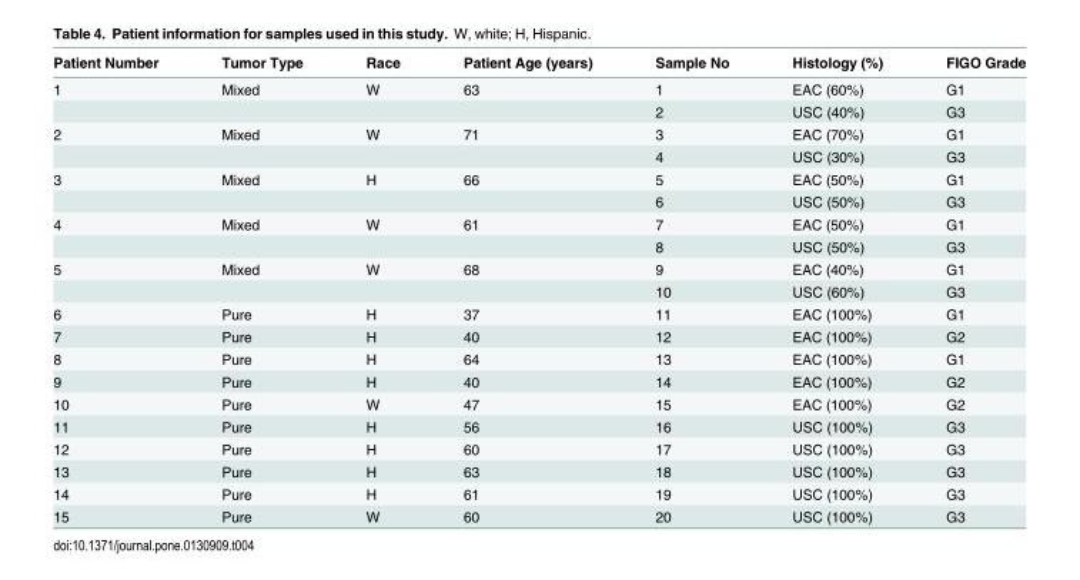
<table><thead><tr><td>Patient Number</td><td>Tumor Type</td><td>Race</td><td>Patient Age (years)</td><td>Sample No</td><td>Histology (%)</td><td>FIGO Grade</td></tr></thead><tbody><tr><td rowspan="2">1</td><td>Mixed</td><td>W</td><td>63</td><td>1</td><td>EAC (60%)</td><td>G1</td></tr><tr><td></td><td></td><td></td><td>2</td><td>USC (40%)</td><td>G3</td></tr><tr><td rowspan="2">2</td><td>Mixed</td><td>W</td><td>71</td><td>3</td><td>EAC (70%)</td><td>G1</td></tr><tr><td></td><td></td><td></td><td>4</td><td>USC (30%)</td><td>G3</td></tr><tr><td rowspan="2">3</td><td>Mixed</td><td>H</td><td>66</td><td>5</td><td>EAC (50%)</td><td>G1</td></tr><tr><td></td><td></td><td></td><td>6</td><td>USC (50%)</td><td>G3</td></tr><tr><td rowspan="2">4</td><td>Mixed</td><td>W</td><td>61</td><td>7</td><td>EAC (50%)</td><td>G1</td></tr><tr><td></td><td></td><td></td><td>8</td><td>USC (50%)</td><td>G3</td></tr><tr><td rowspan="2">5</td><td>Mixed</td><td>W</td><td>68</td><td>9</td><td>EAC (40%)</td><td>G1</td></tr><tr><td></td><td></td><td></td><td>10</td><td>USC (60%)</td><td>G3</td></tr><tr><td>6</td><td>Pure</td><td>H</td><td>37</td><td>11</td><td>EAC (100%)</td><td>G1</td></tr><tr><td>7</td><td>Pure</td><td>H</td><td>40</td><td>12</td><td>EAC (100%)</td><td>G2</td></tr><tr><td>8</td><td>Pure</td><td>H</td><td>64</td><td>13</td><td>EAC (100%)</td><td>G1</td></tr><tr><td>9</td><td>Pure</td><td>H</td><td>40</td><td>14</td><td>EAC (100%)</td><td>G2</td></tr><tr><td>10</td><td>Pure</td><td>W</td><td>47</td><td>15</td><td>EAC (100%)</td><td>G2</td></tr><tr><td>11</td><td>Pure</td><td>H</td><td>56</td><td>16</td><td>USC (100%)</td><td>G3</td></tr><tr><td>12</td><td>Pure</td><td>H</td><td>60</td><td>17</td><td>USC (100%)</td><td>G3</td></tr><tr><td>13</td><td>Pure</td><td>H</td><td>63</td><td>18</td><td>USC (100%)</td><td>G3</td></tr><tr><td>14</td><td>Pure</td><td>H</td><td>61</td><td>19</td><td>USC (100%)</td><td>G3</td></tr><tr><td>15</td><td>Pure</td><td>W</td><td>60</td><td>20</td><td>USC (100%)</td><td>G3</td></tr></tbody></table>